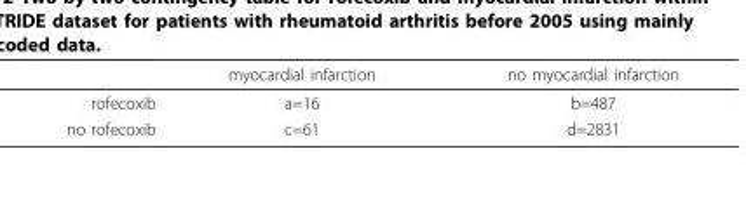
<table><thead><tr><td></td><td>myocardial infarction</td><td>no myocardial infarction</td></tr></thead><tbody><tr><td>rofecoxib</td><td>a=16</td><td>b=487</td></tr><tr><td>no rofecoxib</td><td>c=61</td><td>d=2831</td></tr></tbody></table>